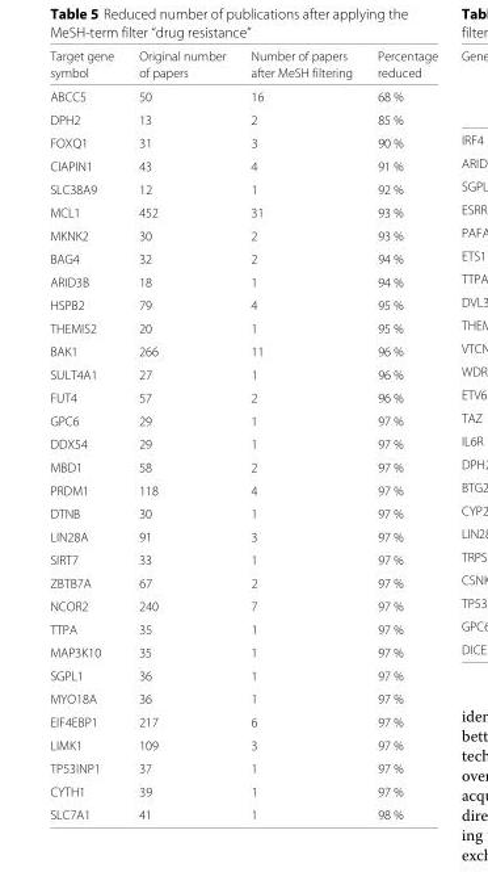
<table><thead><tr><td rowspan="2">Target gene symbol</td><td rowspan="2">Original number of papers</td><td rowspan="2">Number of papers after MeSH filtering</td><td rowspan="2">Percentage reduced</td></tr><tr></tr></thead><tbody><tr><td>ABCC5</td><td>50</td><td>16</td><td>68 %</td></tr><tr><td>DPH2</td><td>13</td><td>2</td><td>85 %</td></tr><tr><td>FOXQ1</td><td>31</td><td>3</td><td>90 %</td></tr><tr><td>CIAPIN1</td><td>43</td><td>4</td><td>91 %</td></tr><tr><td>SLC38A9</td><td>12</td><td>1</td><td>92 %</td></tr><tr><td>MCL1</td><td>452</td><td>31</td><td>93 %</td></tr><tr><td>MKNK2</td><td>30</td><td>2</td><td>93 %</td></tr><tr><td>BAG4</td><td>32</td><td>2</td><td>94 %</td></tr><tr><td>ARID3B</td><td>18</td><td>1</td><td>94 %</td></tr><tr><td>HSPB2</td><td>79</td><td>4</td><td>95 %</td></tr><tr><td>THEMIS2</td><td>20</td><td>1</td><td>95 %</td></tr><tr><td>BAK1</td><td>266</td><td>11</td><td>96 %</td></tr><tr><td>SULT4A1</td><td>27</td><td>1</td><td>96 %</td></tr><tr><td>FUT4</td><td>57</td><td>2</td><td>96 %</td></tr><tr><td>GPC6</td><td>29</td><td>1</td><td>97 %</td></tr><tr><td>DDX54</td><td>29</td><td>1</td><td>97 %</td></tr><tr><td>MBD1</td><td>58</td><td>2</td><td>97 %</td></tr><tr><td>PRDM1</td><td>118</td><td>4</td><td>97 %</td></tr><tr><td>DTNB</td><td>30</td><td>1</td><td>97 %</td></tr><tr><td>LIN28A</td><td>91</td><td>3</td><td>97 %</td></tr><tr><td>SIRT7</td><td>33</td><td>1</td><td>97 %</td></tr><tr><td>ZBTB7A</td><td>67</td><td>2</td><td>97 %</td></tr><tr><td>NCOR2</td><td>240</td><td>7</td><td>97 %</td></tr><tr><td>TTPA</td><td>35</td><td>1</td><td>97 %</td></tr><tr><td>MAP3K10</td><td>35</td><td>1</td><td>97 %</td></tr><tr><td>SGPL1</td><td>36</td><td>1</td><td>97 %</td></tr><tr><td>MYO18A</td><td>36</td><td>1</td><td>97 %</td></tr><tr><td>EIF4EBP1</td><td>217</td><td>6</td><td>97 %</td></tr><tr><td>LIMK1</td><td>109</td><td>3</td><td>97 %</td></tr><tr><td>TP53INP1</td><td>37</td><td>1</td><td>97 %</td></tr><tr><td>CYTH1</td><td>39</td><td>1</td><td>97 %</td></tr><tr><td>SLC7A1</td><td>41</td><td>1</td><td>98 %</td></tr></tbody></table>